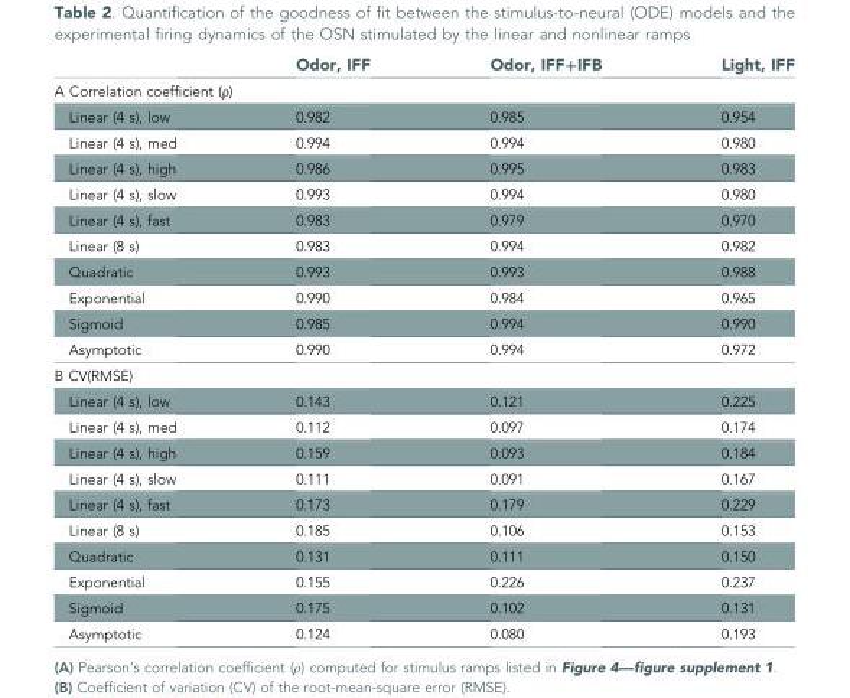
<table><thead><tr><td></td><td>Odor, IFF</td><td>Odor, IFF+IFB</td><td>Light, IFF</td></tr></thead><tbody><tr><td colspan="4">A Correlation coefficient (ρ)</td></tr><tr><td>Linear (4 s), low</td><td>0.982</td><td>0.985</td><td>0.954</td></tr><tr><td>Linear (4 s), med</td><td>0.994</td><td>0.994</td><td>0.980</td></tr><tr><td>Linear (4 s), high</td><td>0.986</td><td>0.995</td><td>0.983</td></tr><tr><td>Linear (4 s), slow</td><td>0.993</td><td>0.994</td><td>0.980</td></tr><tr><td>Linear (4 s), fast</td><td>0.983</td><td>0.979</td><td>0.970</td></tr><tr><td>Linear (8 s)</td><td>0.983</td><td>0.994</td><td>0.982</td></tr><tr><td>Quadratic</td><td>0.993</td><td>0.993</td><td>0.988</td></tr><tr><td>Exponential</td><td>0.990</td><td>0.984</td><td>0.965</td></tr><tr><td>Sigmoid</td><td>0.985</td><td>0.994</td><td>0.990</td></tr><tr><td>Asymptotic</td><td>0.990</td><td>0.994</td><td>0.972</td></tr><tr><td colspan="4">B CV(RMSE)</td></tr><tr><td>Linear (4 s), low</td><td>0.143</td><td>0.121</td><td>0.225</td></tr><tr><td>Linear (4 s), med</td><td>0.112</td><td>0.097</td><td>0.174</td></tr><tr><td>Linear (4 s), high</td><td>0.159</td><td>0.093</td><td>0.184</td></tr><tr><td>Linear (4 s), slow</td><td>0.111</td><td>0.091</td><td>0.167</td></tr><tr><td>Linear (4 s), fast</td><td>0.173</td><td>0.179</td><td>0.229</td></tr><tr><td>Linear (8 s)</td><td>0.185</td><td>0.106</td><td>0.153</td></tr><tr><td>Quadratic</td><td>0.131</td><td>0.111</td><td>0.150</td></tr><tr><td>Exponential</td><td>0.155</td><td>0.226</td><td>0.237</td></tr><tr><td>Sigmoid</td><td>0.175</td><td>0.102</td><td>0.131</td></tr><tr><td>Asymptotic</td><td>0.124</td><td>0.080</td><td>0.193</td></tr></tbody></table>